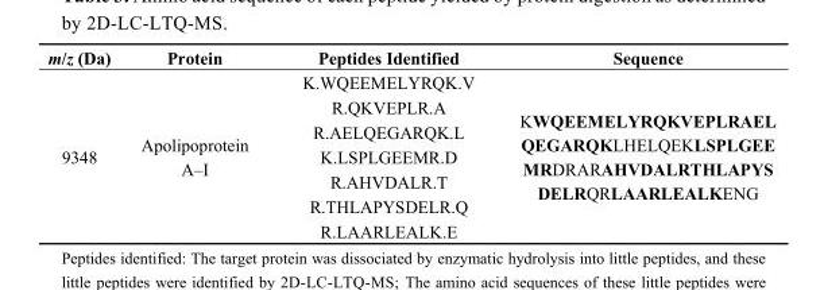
<table><thead><tr><td>m/z (Da)</td><td>Protein</td><td>Peptides Identified</td><td>Sequence</td></tr></thead><tbody><tr><td rowspan="7">9348</td><td rowspan="7">Apolipoprotein A–I</td><td>K.WQEEMELYRQK.V</td><td rowspan="7">KWQEEMELYRQKVEPLRAEL QEGARQKLHELQEKLSPLGEE MRDRARAHVDALRTHLAPYS DELRQRLAARLEALKENG</td></tr><tr><td>R.QKVEPLR.A</td></tr><tr><td>R.AELQEGARQK.L</td></tr><tr><td>K.LSPLGEEMR.D</td></tr><tr><td>R.AHVDALR.T</td></tr><tr><td>R.THLAPYSDELR.Q</td></tr><tr><td>R.LAARLEALK.E</td></tr></tbody></table>